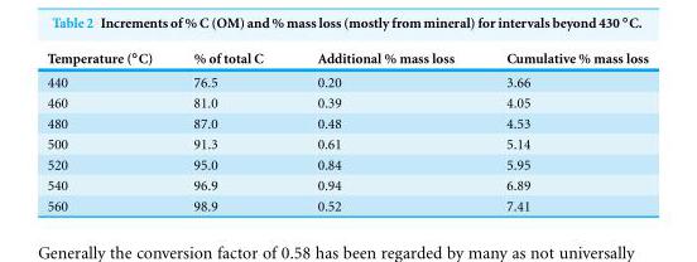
<table><thead><tr><td>Temperature (◦C)</td><td>% of total C</td><td>Additional % mass loss</td><td>Cumulative % mass loss</td></tr></thead><tbody><tr><td>440</td><td>76.5</td><td>0.20</td><td>3.66</td></tr><tr><td>460</td><td>81.0</td><td>0.39</td><td>4.05</td></tr><tr><td>480</td><td>87.0</td><td>0.48</td><td>4.53</td></tr><tr><td>500</td><td>91.3</td><td>0.61</td><td>5.14</td></tr><tr><td>520</td><td>95.0</td><td>0.84</td><td>5.95</td></tr><tr><td>540</td><td>96.9</td><td>0.94</td><td>6.89</td></tr><tr><td>560</td><td>98.9</td><td>0.52</td><td>7.41</td></tr></tbody></table>